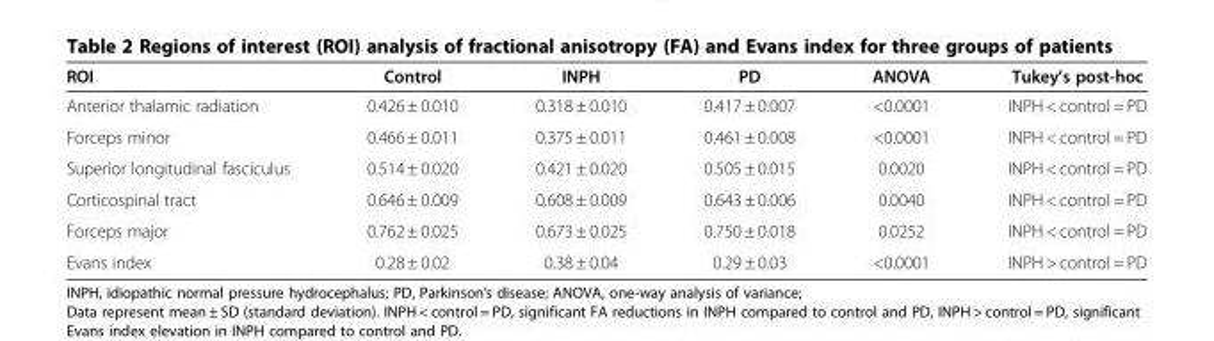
<table><thead><tr><td>ROI</td><td>Control</td><td>INPH</td><td>PD</td><td>ANOVA</td><td>Tukey’s post-hoc</td></tr></thead><tbody><tr><td>Anterior thalamic radiation</td><td>0.426 ± 0.010</td><td>0.318 ± 0.010</td><td>0.417 ± 0.007</td><td>&lt;0.0001</td><td>INPH &lt; control = PD</td></tr><tr><td>Forceps minor</td><td>0.466 ± 0.011</td><td>0.375 ± 0.011</td><td>0.461 ± 0.008</td><td>&lt;0.0001</td><td>INPH &lt; control = PD</td></tr><tr><td>Superior longitudinal fasciculus</td><td>0.514 ± 0.020</td><td>0.421 ± 0.020</td><td>0.505 ± 0.015</td><td>0.0020</td><td>INPH &lt; control = PD</td></tr><tr><td>Corticospinal tract</td><td>0.646 ± 0.009</td><td>0.608 ± 0.009</td><td>0.643 ± 0.006</td><td>0.0040</td><td>INPH &lt; control = PD</td></tr><tr><td>Forceps major</td><td>0.762 ± 0.025</td><td>0.673 ± 0.025</td><td>0.750 ± 0.018</td><td>0.0252</td><td>INPH &lt; control = PD</td></tr><tr><td>Evans index</td><td>0.28 ± 0.02</td><td>0.38 ± 0.04</td><td>0.29 ± 0.03</td><td>&lt;0.0001</td><td>INPH &gt; control = PD</td></tr></tbody></table>